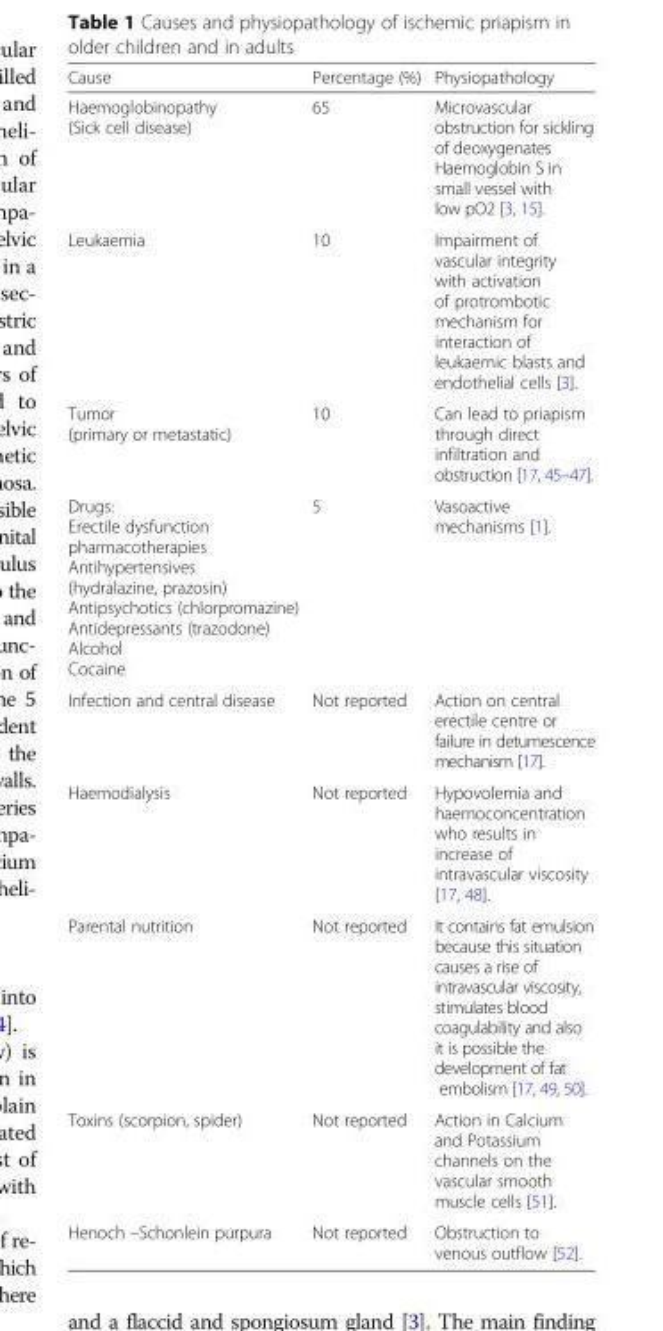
<table><thead><tr><td>Cause</td><td>Percentage (%)</td><td>Physiopathology</td></tr></thead><tbody><tr><td>Haemoglobinopathy (Sick cell disease)</td><td>65</td><td>Microvascular obstruction for sickling of deoxygenates Haemoglobin S in small vessel with low pO2 [3, 15].</td></tr><tr><td>Leukaemia</td><td>10</td><td>Impairment of vascular integrity with activation of protrombotic mechanism for interaction of leukaemic blasts and endothelial cells [3].</td></tr><tr><td>Tumor (primary or metastatic)</td><td>10</td><td>Can lead to priapism through direct infiltration and obstruction [17, 45–47].</td></tr><tr><td>Drugs: Erectile dysfunction pharmacotherapies Antihypertensives (hydralazine, prazosin) Antipsychotics (chlorpromazine) Antidepressants (trazodone) Alcohol Cocaine</td><td>5</td><td>Vasoactive mechanisms [1].</td></tr><tr><td>Infection and central disease</td><td>Not reported</td><td>Action on central erectile centre or failure in detumescence mechanism [17].</td></tr><tr><td>Haemodialysis</td><td>Not reported</td><td>Hypovolemia and haemoconcentration who results in increase of intravascular viscosity [17, 48].</td></tr><tr><td>Parental nutrition</td><td>Not reported</td><td>It contains fat emulsion because this situation causes a rise of intravascular viscosity, stimulates blood coagulability and also it is possible the development of fat embolism [17, 49, 50].</td></tr><tr><td>Toxins (scorpion, spider)</td><td>Not reported</td><td>Action in Calcium and Potassium channels on the vascular smooth muscle cells [51].</td></tr><tr><td>Henoch –Schonlein purpura</td><td>Not reported</td><td>Obstruction to venous outflow [52].</td></tr></tbody></table>